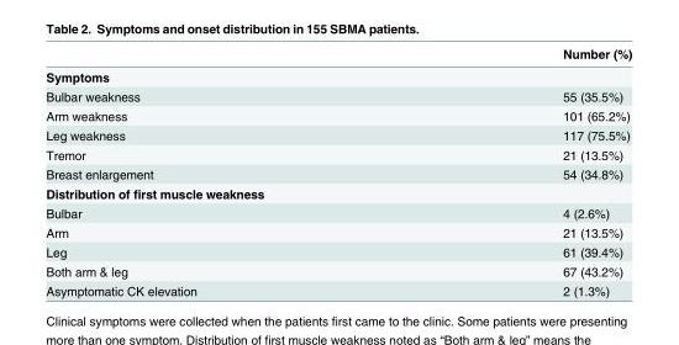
<table><thead><tr><td></td><td>Number (%)</td></tr></thead><tbody><tr><td colspan="2">Symptoms</td></tr><tr><td>Bulbar weakness</td><td>55 (35.5%)</td></tr><tr><td>Arm weakness</td><td>101 (65.2%)</td></tr><tr><td>Leg weakness</td><td>117 (75.5%)</td></tr><tr><td>Tremor</td><td>21 (13.5%)</td></tr><tr><td>Breast enlargement</td><td>54 (34.8%)</td></tr><tr><td colspan="2">Distribution of first muscle weakness</td></tr><tr><td>Bulbar</td><td>4 (2.6%)</td></tr><tr><td>Arm</td><td>21 (13.5%)</td></tr><tr><td>Leg</td><td>61 (39.4%)</td></tr><tr><td>Both arm &amp; leg</td><td>67 (43.2%)</td></tr><tr><td>Asymptomatic CK elevation</td><td>2 (1.3%)</td></tr></tbody></table>